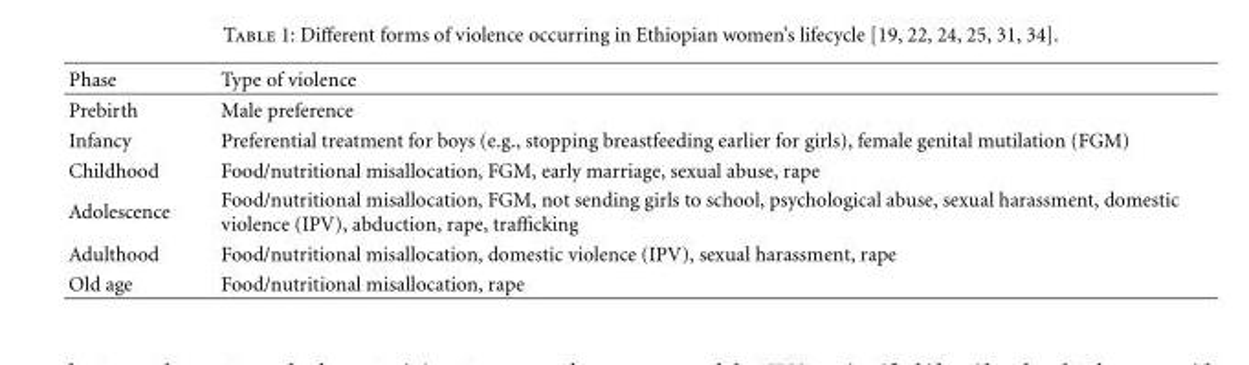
<table><thead><tr><td>Phase</td><td>Type of violence</td></tr></thead><tbody><tr><td>Prebirth</td><td>Male preference</td></tr><tr><td>Infancy</td><td>Preferential treatment for boys (e.g., stopping breastfeeding earlier for girls), female genital mutilation (FGM)</td></tr><tr><td>Childhood</td><td>Food/nutritional misallocation, FGM, early marriage, sexual abuse, rape</td></tr><tr><td>Adolescence</td><td>Food/nutritional misallocation, FGM, not sending girls to school, psychological abuse, sexual harassment, domestic violence (IPV), abduction, rape, trafficking</td></tr><tr><td>Adulthood</td><td>Food/nutritional misallocation, domestic violence (IPV), sexual harassment, rape</td></tr><tr><td>Old age</td><td>Food/nutritional misallocation, rape</td></tr></tbody></table>